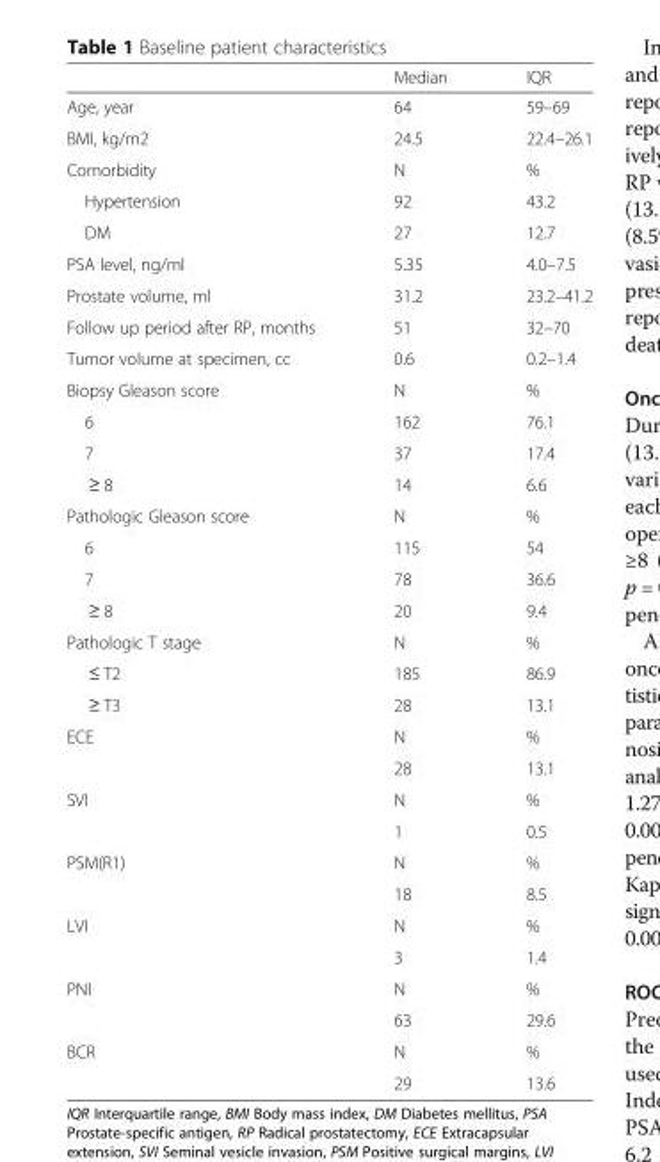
<table><thead><tr><td></td><td>Median</td><td>IQR</td></tr></thead><tbody><tr><td>Age, year</td><td>64</td><td>59–69</td></tr><tr><td>BMI, kg/m2</td><td>24.5</td><td>22.4–26.1</td></tr><tr><td>Comorbidity</td><td>N</td><td>%</td></tr><tr><td>Hypertension</td><td>92</td><td>43.2</td></tr><tr><td>DM</td><td>27</td><td>12.7</td></tr><tr><td>PSA level, ng/ml</td><td>5.35</td><td>4.0–7.5</td></tr><tr><td>Prostate volume, ml</td><td>31.2</td><td>23.2–41.2</td></tr><tr><td>Follow up period after RP, months</td><td>51</td><td>32–70</td></tr><tr><td>Tumor volume at specimen, cc</td><td>0.6</td><td>0.2–1.4</td></tr><tr><td>Biopsy Gleason score</td><td>N</td><td>%</td></tr><tr><td>6</td><td>162</td><td>76.1</td></tr><tr><td>7</td><td>37</td><td>17.4</td></tr><tr><td>≥ 8</td><td>14</td><td>6.6</td></tr><tr><td>Pathologic Gleason score</td><td>N</td><td>%</td></tr><tr><td>6</td><td>115</td><td>54</td></tr><tr><td>7</td><td>78</td><td>36.6</td></tr><tr><td>≥ 8</td><td>20</td><td>9.4</td></tr><tr><td>Pathologic T stage</td><td>N</td><td>%</td></tr><tr><td>≤ T2</td><td>185</td><td>86.9</td></tr><tr><td>≥ T3</td><td>28</td><td>13.1</td></tr><tr><td rowspan="2">ECE</td><td>N</td><td>%</td></tr><tr><td>28</td><td>13.1</td></tr><tr><td rowspan="2">SVI</td><td>N</td><td>%</td></tr><tr><td>1</td><td>0.5</td></tr><tr><td rowspan="2">PSM(R1)</td><td>N</td><td>%</td></tr><tr><td>18</td><td>8.5</td></tr><tr><td rowspan="2">LVI</td><td>N</td><td>%</td></tr><tr><td>3</td><td>1.4</td></tr><tr><td rowspan="2">PNI</td><td>N</td><td>%</td></tr><tr><td>63</td><td>29.6</td></tr><tr><td rowspan="2">BCR</td><td>N</td><td>%</td></tr><tr><td>29</td><td>13.6</td></tr></tbody></table>